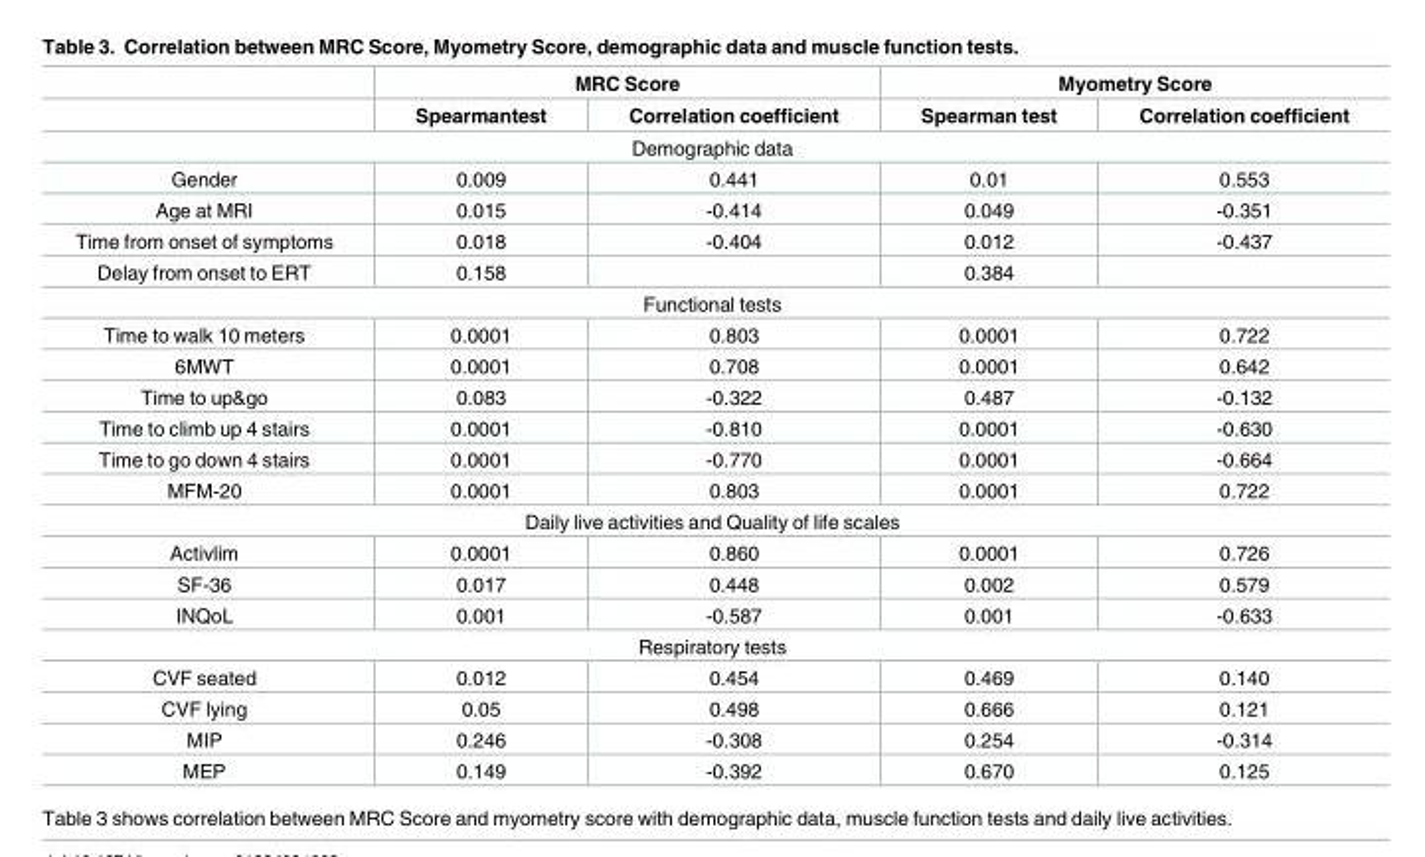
<table><thead><tr><td rowspan="2"></td><td colspan="2">MRC Score</td><td colspan="2">Myometry Score</td></tr><tr><td>Spearmantest</td><td>Correlation coefficient</td><td>Spearman test</td><td>Correlation coefficient</td></tr></thead><tbody><tr><td colspan="5">Demographic data</td></tr><tr><td>Gender</td><td>0.009</td><td>0.441</td><td>0.01</td><td>0.553</td></tr><tr><td>Age at MRI</td><td>0.015</td><td>-0.414</td><td>0.049</td><td>-0.351</td></tr><tr><td>Time from onset of symptoms</td><td>0.018</td><td>-0.404</td><td>0.012</td><td>-0.437</td></tr><tr><td>Delay from onset to ERT</td><td>0.158</td><td></td><td>0.384</td><td></td></tr><tr><td colspan="5">Functional tests</td></tr><tr><td>Time to walk 10 meters</td><td>0.0001</td><td>0.803</td><td>0.0001</td><td>0.722</td></tr><tr><td>6MWT</td><td>0.0001</td><td>0.708</td><td>0.0001</td><td>0.642</td></tr><tr><td>Time to up&amp;go</td><td>0.083</td><td>-0.322</td><td>0.487</td><td>-0.132</td></tr><tr><td>Time to climb up 4 stairs</td><td>0.0001</td><td>-0.810</td><td>0.0001</td><td>-0.630</td></tr><tr><td>Time to go down 4 stairs</td><td>0.0001</td><td>-0.770</td><td>0.0001</td><td>-0.664</td></tr><tr><td>MFM-20</td><td>0.0001</td><td>0.803</td><td>0.0001</td><td>0.722</td></tr><tr><td colspan="5">Daily live activities and Quality of life scales</td></tr><tr><td>Activlim</td><td>0.0001</td><td>0.860</td><td>0.0001</td><td>0.726</td></tr><tr><td>SF-36</td><td>0.017</td><td>0.448</td><td>0.002</td><td>0.579</td></tr><tr><td>INQoL</td><td>0.001</td><td>-0.587</td><td>0.001</td><td>-0.633</td></tr><tr><td colspan="5">Respiratory tests</td></tr><tr><td>CVF seated</td><td>0.012</td><td>0.454</td><td>0.469</td><td>0.140</td></tr><tr><td>CVF lying</td><td>0.05</td><td>0.498</td><td>0.666</td><td>0.121</td></tr><tr><td>MIP</td><td>0.246</td><td>-0.308</td><td>0.254</td><td>-0.314</td></tr><tr><td>MEP</td><td>0.149</td><td>-0.392</td><td>0.670</td><td>0.125</td></tr></tbody></table>